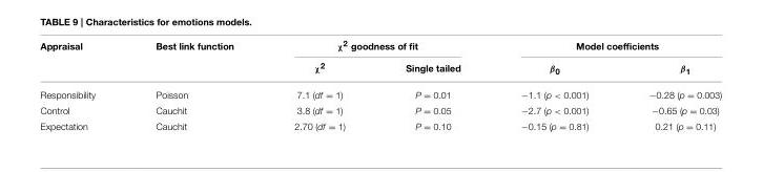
<table><thead><tr><td rowspan="2">Appraisal</td><td rowspan="2">Best link function</td><td colspan="2">χ<sup>2</sup> goodness of fit</td><td colspan="2">Model coefficients</td></tr><tr><td>χ<sup>2</sup></td><td>Single tailed</td><td>β<sub>0</sub></td><td>β<sub>1</sub></td></tr></thead><tbody><tr><td>Responsibility</td><td>Poisson</td><td>7.1 (df = 1)</td><td>P = 0.01</td><td>−1.1 (p &lt; 0.001)</td><td>−0.28 (p = 0.003)</td></tr><tr><td>Control</td><td>Cauchit</td><td>3.8 (df = 1)</td><td>P = 0.05</td><td>−2.7 (p &lt; 0.001)</td><td>−0.65 (p = 0.03)</td></tr><tr><td>Expectation</td><td>Cauchit</td><td>2.70 (df = 1)</td><td>P = 0.10</td><td>−0.15 (p = 0.81)</td><td>0.21 (p = 0.11)</td></tr></tbody></table>